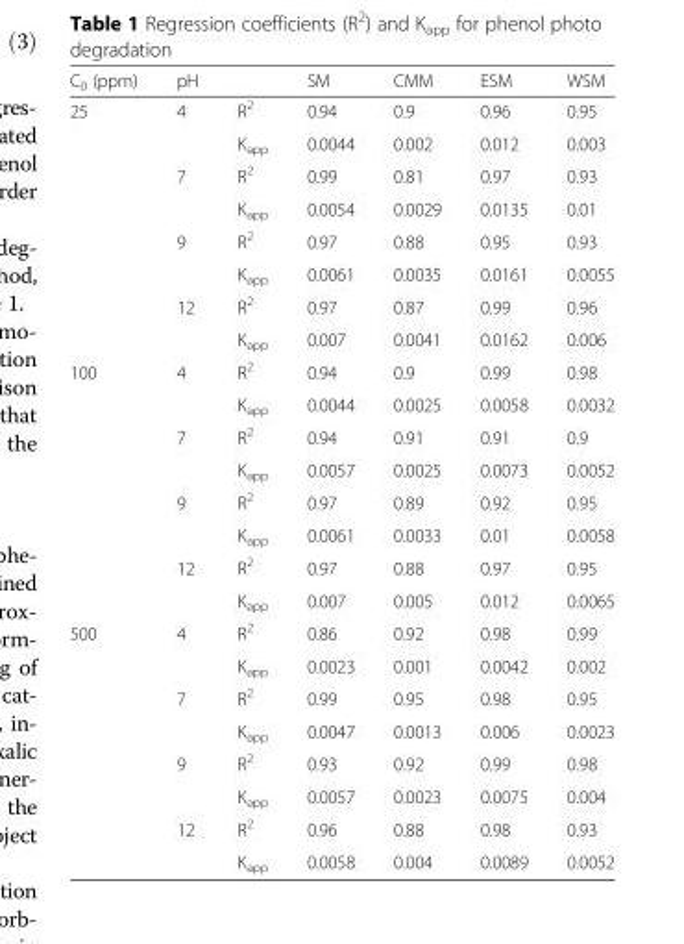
<table><thead><tr><td>C<sub>0</sub> (ppm)</td><td>pH</td><td></td><td>SM</td><td>CMM</td><td>ESM</td><td>WSM</td></tr></thead><tbody><tr><td rowspan="8">25</td><td rowspan="2">4</td><td>R<sup>2</sup></td><td>0.94</td><td>0.9</td><td>0.96</td><td>0.95</td></tr><tr><td>K<sub>app</sub></td><td>0.0044</td><td>0.002</td><td>0.012</td><td>0.003</td></tr><tr><td rowspan="2">7</td><td>R<sup>2</sup></td><td>0.99</td><td>0.81</td><td>0.97</td><td>0.93</td></tr><tr><td>K<sub>app</sub></td><td>0.0054</td><td>0.0029</td><td>0.0135</td><td>0.01</td></tr><tr><td rowspan="2">9</td><td>R<sup>2</sup></td><td>0.97</td><td>0.88</td><td>0.95</td><td>0.93</td></tr><tr><td>K<sub>app</sub></td><td>0.0061</td><td>0.0035</td><td>0.0161</td><td>0.0055</td></tr><tr><td rowspan="2">12</td><td>R<sup>2</sup></td><td>0.97</td><td>0.87</td><td>0.99</td><td>0.96</td></tr><tr><td>K<sub>app</sub></td><td>0.007</td><td>0.0041</td><td>0.0162</td><td>0.006</td></tr><tr><td rowspan="8">100</td><td rowspan="2">4</td><td>R<sup>2</sup></td><td>0.94</td><td>0.9</td><td>0.99</td><td>0.98</td></tr><tr><td>K<sub>app</sub></td><td>0.0044</td><td>0.0025</td><td>0.0058</td><td>0.0032</td></tr><tr><td rowspan="2">7</td><td>R<sup>2</sup></td><td>0.94</td><td>0.91</td><td>0.91</td><td>0.9</td></tr><tr><td>K<sub>app</sub></td><td>0.0057</td><td>0.0025</td><td>0.0073</td><td>0.0052</td></tr><tr><td rowspan="2">9</td><td>R<sup>2</sup></td><td>0.97</td><td>0.89</td><td>0.92</td><td>0.95</td></tr><tr><td>K<sub>app</sub></td><td>0.0061</td><td>0.0033</td><td>0.01</td><td>0.0058</td></tr><tr><td rowspan="2">12</td><td>R<sup>2</sup></td><td>0.97</td><td>0.88</td><td>0.97</td><td>0.95</td></tr><tr><td>K<sub>app</sub></td><td>0.007</td><td>0.005</td><td>0.012</td><td>0.0065</td></tr><tr><td rowspan="8">500</td><td rowspan="2">4</td><td>R<sup>2</sup></td><td>0.86</td><td>0.92</td><td>0.98</td><td>0.99</td></tr><tr><td>K<sub>app</sub></td><td>0.0023</td><td>0.001</td><td>0.0042</td><td>0.002</td></tr><tr><td rowspan="2">7</td><td>R<sup>2</sup></td><td>0.99</td><td>0.95</td><td>0.98</td><td>0.95</td></tr><tr><td>K<sub>app</sub></td><td>0.0047</td><td>0.0013</td><td>0.006</td><td>0.0023</td></tr><tr><td rowspan="2">9</td><td>R<sup>2</sup></td><td>0.93</td><td>0.92</td><td>0.99</td><td>0.98</td></tr><tr><td>K<sub>app</sub></td><td>0.0057</td><td>0.0023</td><td>0.0075</td><td>0.004</td></tr><tr><td rowspan="2">12</td><td>R<sup>2</sup></td><td>0.96</td><td>0.88</td><td>0.98</td><td>0.93</td></tr><tr><td>K<sub>app</sub></td><td>0.0058</td><td>0.004</td><td>0.0089</td><td>0.0052</td></tr></tbody></table>